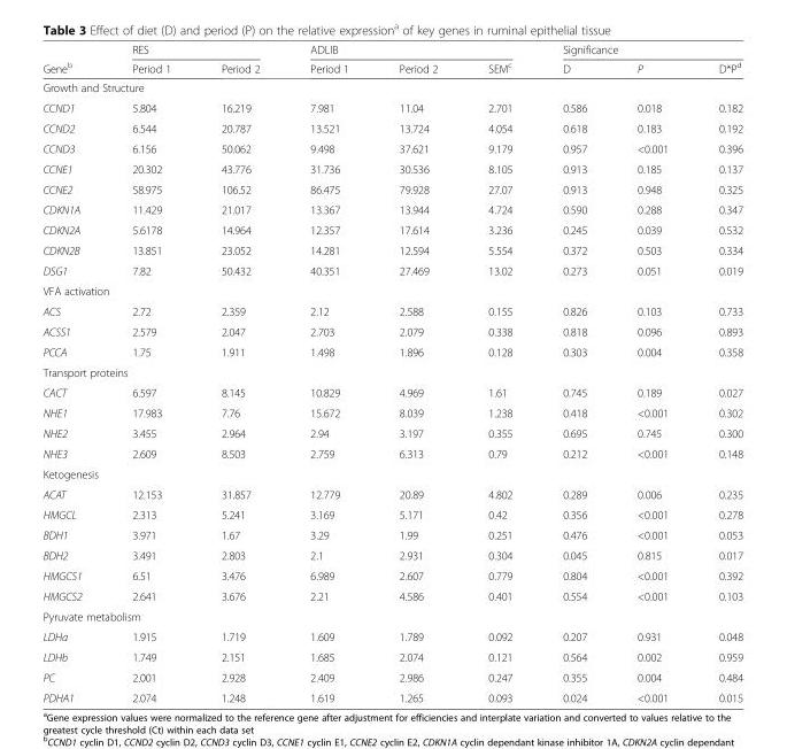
<table><thead><tr><td rowspan="2">Gene<sup>b</sup></td><td colspan="2">RES</td><td colspan="3">ADLIB</td><td colspan="3">Significance</td></tr><tr><td>Period 1</td><td>Period 2</td><td>Period 1</td><td>Period 2</td><td>SEM<sup>c</sup></td><td>D</td><td>P</td><td>D*P<sup>d</sup></td></tr></thead><tbody><tr><td colspan="9">Growth and Structure</td></tr><tr><td>CCND1</td><td>5.804</td><td>16.219</td><td>7.981</td><td>11.04</td><td>2.701</td><td>0.586</td><td>0.018</td><td>0.182</td></tr><tr><td>CCND2</td><td>6.544</td><td>20.787</td><td>13.521</td><td>13.724</td><td>4.054</td><td>0.618</td><td>0.183</td><td>0.192</td></tr><tr><td>CCND3</td><td>6.156</td><td>50.062</td><td>9.498</td><td>37.621</td><td>9.179</td><td>0.957</td><td>&lt;0.001</td><td>0.396</td></tr><tr><td>CCNE1</td><td>20.302</td><td>43.776</td><td>31.736</td><td>30.536</td><td>8.105</td><td>0.913</td><td>0.185</td><td>0.137</td></tr><tr><td>CCNE2</td><td>58.975</td><td>106.52</td><td>86.475</td><td>79.928</td><td>27.07</td><td>0.913</td><td>0.948</td><td>0.325</td></tr><tr><td>CDKN1A</td><td>11.429</td><td>21.017</td><td>13.367</td><td>13.944</td><td>4.724</td><td>0.590</td><td>0.288</td><td>0.347</td></tr><tr><td>CDKN2A</td><td>5.6178</td><td>14.964</td><td>12.357</td><td>17.614</td><td>3.236</td><td>0.245</td><td>0.039</td><td>0.532</td></tr><tr><td>CDKN2B</td><td>13.851</td><td>23.052</td><td>14.281</td><td>12.594</td><td>5.554</td><td>0.372</td><td>0.503</td><td>0.334</td></tr><tr><td>DSG1</td><td>7.82</td><td>50.432</td><td>40.351</td><td>27.469</td><td>13.02</td><td>0.273</td><td>0.051</td><td>0.019</td></tr><tr><td colspan="9">VFA activation</td></tr><tr><td>ACS</td><td>2.72</td><td>2.359</td><td>2.12</td><td>2.588</td><td>0.155</td><td>0.826</td><td>0.103</td><td>0.733</td></tr><tr><td>ACSS1</td><td>2.579</td><td>2.047</td><td>2.703</td><td>2.079</td><td>0.338</td><td>0.818</td><td>0.096</td><td>0.893</td></tr><tr><td>PCCA</td><td>1.75</td><td>1.911</td><td>1.498</td><td>1.896</td><td>0.128</td><td>0.303</td><td>0.004</td><td>0.358</td></tr><tr><td colspan="9">Transport proteins</td></tr><tr><td>CACT</td><td>6.597</td><td>8.145</td><td>10.829</td><td>4.969</td><td>1.61</td><td>0.745</td><td>0.189</td><td>0.027</td></tr><tr><td>NHE1</td><td>17.983</td><td>7.76</td><td>15.672</td><td>8.039</td><td>1.238</td><td>0.418</td><td>&lt;0.001</td><td>0.302</td></tr><tr><td>NHE2</td><td>3.455</td><td>2.964</td><td>2.94</td><td>3.197</td><td>0.355</td><td>0.695</td><td>0.745</td><td>0.300</td></tr><tr><td>NHE3</td><td>2.609</td><td>8.503</td><td>2.759</td><td>6.313</td><td>0.79</td><td>0.212</td><td>&lt;0.001</td><td>0.148</td></tr><tr><td colspan="9">Ketogenesis</td></tr><tr><td>ACAT</td><td>12.153</td><td>31.857</td><td>12.779</td><td>20.89</td><td>4.802</td><td>0.289</td><td>0.006</td><td>0.235</td></tr><tr><td>HMGCL</td><td>2.313</td><td>5.241</td><td>3.169</td><td>5.171</td><td>0.42</td><td>0.356</td><td>&lt;0.001</td><td>0.278</td></tr><tr><td>BDH1</td><td>3.971</td><td>1.67</td><td>3.29</td><td>1.99</td><td>0.251</td><td>0.476</td><td>&lt;0.001</td><td>0.053</td></tr><tr><td>BDH2</td><td>3.491</td><td>2.803</td><td>2.1</td><td>2.931</td><td>0.304</td><td>0.045</td><td>0.815</td><td>0.017</td></tr><tr><td>HMGCS1</td><td>6.51</td><td>3.476</td><td>6.989</td><td>2.607</td><td>0.779</td><td>0.804</td><td>&lt;0.001</td><td>0.392</td></tr><tr><td>HMGCS2</td><td>2.641</td><td>3.676</td><td>2.21</td><td>4.586</td><td>0.401</td><td>0.554</td><td>&lt;0.001</td><td>0.103</td></tr><tr><td colspan="9">Pyruvate metabolism</td></tr><tr><td>LDHa</td><td>1.915</td><td>1.719</td><td>1.609</td><td>1.789</td><td>0.092</td><td>0.207</td><td>0.931</td><td>0.048</td></tr><tr><td>LDHb</td><td>1.749</td><td>2.151</td><td>1.685</td><td>2.074</td><td>0.121</td><td>0.564</td><td>0.002</td><td>0.959</td></tr><tr><td>PC</td><td>2.001</td><td>2.928</td><td>2.409</td><td>2.986</td><td>0.247</td><td>0.355</td><td>0.004</td><td>0.484</td></tr><tr><td>PDHA1</td><td>2.074</td><td>1.248</td><td>1.619</td><td>1.265</td><td>0.093</td><td>0.024</td><td>&lt;0.001</td><td>0.015</td></tr></tbody></table>